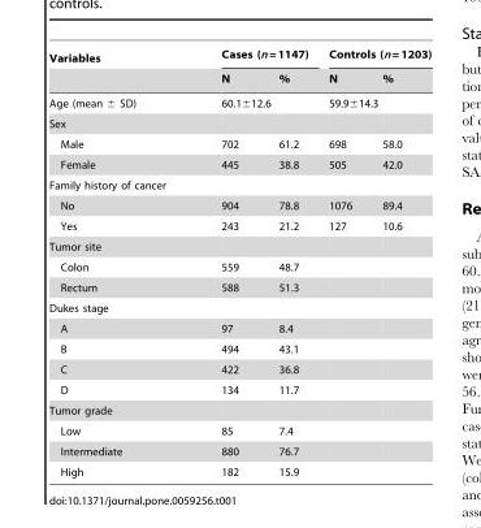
<table><thead><tr><td rowspan="2">Variables</td><td colspan="2">Cases (n = 1147)</td><td colspan="2">Controls (n = 1203)</td></tr><tr><td>N</td><td>%</td><td>N</td><td>%</td></tr></thead><tbody><tr><td>Age (mean ± SD)</td><td colspan="2">60.1±12.6</td><td colspan="2">59.9±14.3</td></tr><tr><td colspan="5">Sex</td></tr><tr><td>Male</td><td>702</td><td>61.2</td><td>698</td><td>58.0</td></tr><tr><td>Female</td><td>445</td><td>38.8</td><td>505</td><td>42.0</td></tr><tr><td colspan="5">Family history of cancer</td></tr><tr><td>No</td><td>904</td><td>78.8</td><td>1076</td><td>89.4</td></tr><tr><td>Yes</td><td>243</td><td>21.2</td><td>127</td><td>10.6</td></tr><tr><td colspan="5">Tumor site</td></tr><tr><td>Colon</td><td>559</td><td>48.7</td><td></td><td></td></tr><tr><td>Rectum</td><td>588</td><td>51.3</td><td></td><td></td></tr><tr><td colspan="5">Dukes stage</td></tr><tr><td>A</td><td>97</td><td>8.4</td><td></td><td></td></tr><tr><td>B</td><td>494</td><td>43.1</td><td></td><td></td></tr><tr><td>C</td><td>422</td><td>36.8</td><td></td><td></td></tr><tr><td>D</td><td>134</td><td>11.7</td><td></td><td></td></tr><tr><td colspan="5">Tumor grade</td></tr><tr><td>Low</td><td>85</td><td>7.4</td><td></td><td></td></tr><tr><td>Intermediate</td><td>880</td><td>76.7</td><td></td><td></td></tr><tr><td>High</td><td>182</td><td>15.9</td><td></td><td></td></tr></tbody></table>